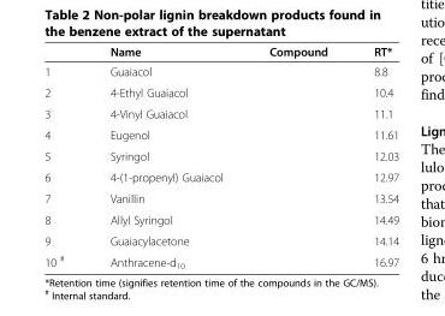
<table><thead><tr><td></td><td>Name</td><td>Compound</td><td>RT*</td></tr></thead><tbody><tr><td>1</td><td>Guaiacol</td><td></td><td>8.8</td></tr><tr><td>2</td><td>4-Ethyl Guaiacol</td><td></td><td>10.4</td></tr><tr><td>3</td><td>4-Vinyl Guaiacol</td><td></td><td>11.1</td></tr><tr><td>4</td><td>Eugenol</td><td></td><td>11.61</td></tr><tr><td>5</td><td>Syringol</td><td></td><td>12.03</td></tr><tr><td>6</td><td>4-(1-propenyl) Guaiacol</td><td></td><td>12.97</td></tr><tr><td>7</td><td>Vanillin</td><td></td><td>13.54</td></tr><tr><td>8</td><td>Allyl Syringol</td><td></td><td>14.49</td></tr><tr><td>9</td><td>Guaiacylacetone</td><td></td><td>14.14</td></tr><tr><td>10 <sup>#</sup></td><td>Anthracene-d<sub>10</sub></td><td></td><td>16.97</td></tr></tbody></table>